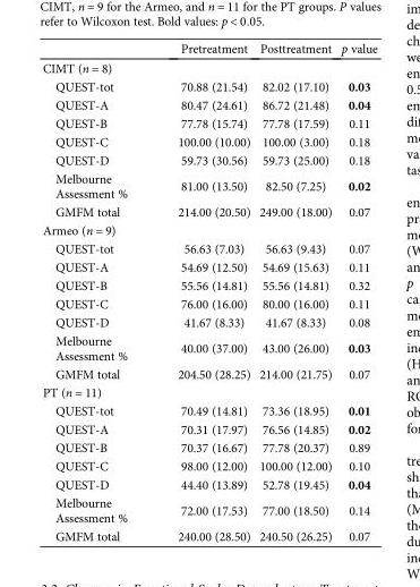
<table><thead><tr><td></td><td>Pretreatment</td><td>Posttreatment</td><td>p value</td></tr></thead><tbody><tr><td colspan="4">CIMT (n = 8)</td></tr><tr><td>QUEST-tot</td><td>70.88 (21.54)</td><td>82.02 (17.10)</td><td>0.03</td></tr><tr><td>QUEST-A</td><td>80.47 (24.61)</td><td>86.72 (21.48)</td><td>0.04</td></tr><tr><td>QUEST-B</td><td>77.78 (15.74)</td><td>77.78 (17.59)</td><td>0.11</td></tr><tr><td>QUEST-C</td><td>100.00 (10.00)</td><td>100.00 (3.00)</td><td>0.18</td></tr><tr><td>QUEST-D</td><td>59.73 (30.56)</td><td>59.73 (25.00)</td><td>0.18</td></tr><tr><td>Melbourne Assessment %</td><td>81.00 (13.50)</td><td>82.50 (7.25)</td><td>0.02</td></tr><tr><td>GMFM total</td><td>214.00 (20.50)</td><td>249.00 (18.00)</td><td>0.07</td></tr><tr><td colspan="4">Armeo (n = 9)</td></tr><tr><td>QUEST-tot</td><td>56.63 (7.03)</td><td>56.63 (9.43)</td><td>0.07</td></tr><tr><td>QUEST-A</td><td>54.69 (12.50)</td><td>54.69 (15.63)</td><td>0.11</td></tr><tr><td>QUEST-B</td><td>55.56 (14.81)</td><td>55.56 (14.81)</td><td>0.32</td></tr><tr><td>QUEST-C</td><td>76.00 (16.00)</td><td>80.00 (16.00)</td><td>0.11</td></tr><tr><td>QUEST-D</td><td>41.67 (8.33)</td><td>41.67 (8.33)</td><td>0.08</td></tr><tr><td>Melbourne Assessment %</td><td>40.00 (37.00)</td><td>43.00 (26.00)</td><td>0.03</td></tr><tr><td>GMFM total</td><td>204.50 (28.25)</td><td>214.00 (21.75)</td><td>0.07</td></tr><tr><td colspan="4">PT (n = 11)</td></tr><tr><td>QUEST-tot</td><td>70.49 (14.81)</td><td>73.36 (18.95)</td><td>0.01</td></tr><tr><td>QUEST-A</td><td>70.31 (17.97)</td><td>76.56 (14.85)</td><td>0.02</td></tr><tr><td>QUEST-B</td><td>70.37 (16.67)</td><td>77.78 (20.37)</td><td>0.89</td></tr><tr><td>QUEST-C</td><td>98.00 (12.00)</td><td>100.00 (12.00)</td><td>0.10</td></tr><tr><td>QUEST-D</td><td>44.40 (13.89)</td><td>52.78 (19.45)</td><td>0.04</td></tr><tr><td>Melbourne Assessment %</td><td>72.00 (17.53)</td><td>77.00 (18.50)</td><td>0.14</td></tr><tr><td>GMFM total</td><td>240.00 (28.50)</td><td>240.50 (26.25)</td><td>0.07</td></tr></tbody></table>